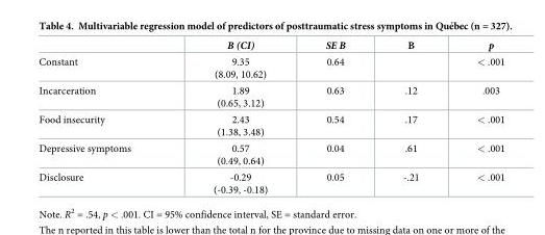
<table><thead><tr><td></td><td>B (CI)</td><td>SE B</td><td>B</td><td>p</td></tr></thead><tbody><tr><td>Constant</td><td>9.35 (8.09, 10.62)</td><td>0.64</td><td></td><td>&lt; .001</td></tr><tr><td>Incarceration</td><td>1.89 (0.65, 3.12)</td><td>0.63</td><td>.12</td><td>.003</td></tr><tr><td>Food insecurity</td><td>2.43 (1.38, 3.48)</td><td>0.54</td><td>.17</td><td>&lt; .001</td></tr><tr><td>Depressive symptoms</td><td>0.57 (0.49, 0.64)</td><td>0.04</td><td>.61</td><td>&lt; .001</td></tr><tr><td>Disclosure</td><td>-0.29 (-0.39, -0.18)</td><td>0.05</td><td>-.21</td><td>&lt; .001</td></tr></tbody></table>